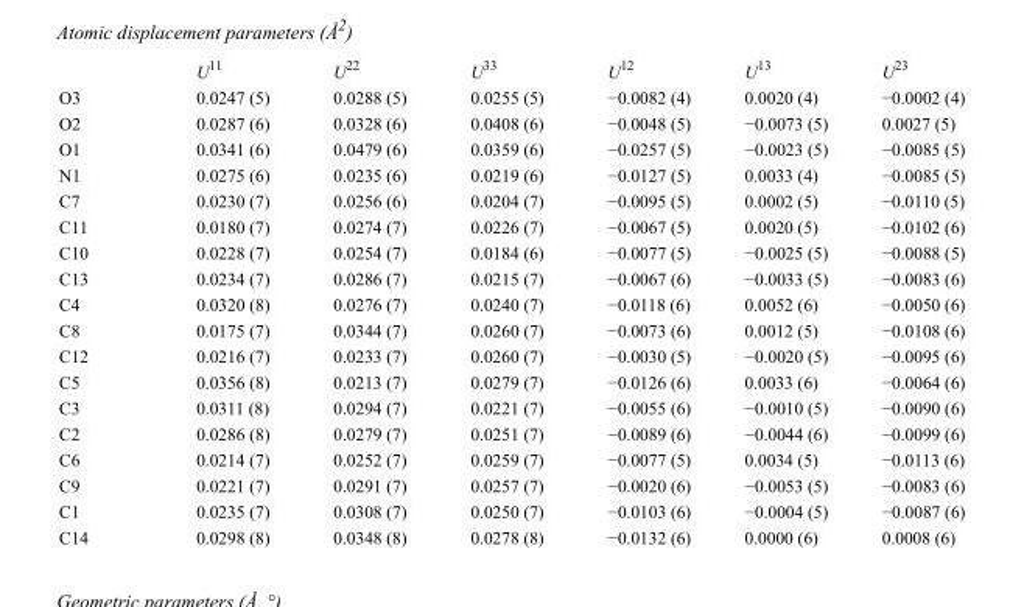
<table><thead><tr><td></td><td>U<sup>11</sup></td><td>U<sup>22</sup></td><td>U<sup>33</sup></td><td>U<sup>12</sup></td><td>U<sup>13</sup></td><td>U<sup>23</sup></td></tr></thead><tbody><tr><td>O3</td><td>0.0247 (5)</td><td>0.0288 (5)</td><td>0.0255 (5)</td><td>−0.0082 (4)</td><td>0.0020 (4)</td><td>−0.0002 (4)</td></tr><tr><td>O2</td><td>0.0287 (6)</td><td>0.0328 (6)</td><td>0.0408 (6)</td><td>−0.0048 (5)</td><td>−0.0073 (5)</td><td>0.0027 (5)</td></tr><tr><td>O1</td><td>0.0341 (6)</td><td>0.0479 (6)</td><td>0.0359 (6)</td><td>−0.0257 (5)</td><td>−0.0023 (5)</td><td>−0.0085 (5)</td></tr><tr><td>N1</td><td>0.0275 (6)</td><td>0.0235 (6)</td><td>0.0219 (6)</td><td>−0.0127 (5)</td><td>0.0033 (4)</td><td>−0.0085 (5)</td></tr><tr><td>C7</td><td>0.0230 (7)</td><td>0.0256 (6)</td><td>0.0204 (7)</td><td>−0.0095 (5)</td><td>0.0002 (5)</td><td>−0.0110 (5)</td></tr><tr><td>C11</td><td>0.0180 (7)</td><td>0.0274 (7)</td><td>0.0226 (7)</td><td>−0.0067 (5)</td><td>0.0020 (5)</td><td>−0.0102 (6)</td></tr><tr><td>C10</td><td>0.0228 (7)</td><td>0.0254 (7)</td><td>0.0184 (6)</td><td>−0.0077 (5)</td><td>−0.0025 (5)</td><td>−0.0088 (5)</td></tr><tr><td>C13</td><td>0.0234 (7)</td><td>0.0286 (7)</td><td>0.0215 (7)</td><td>−0.0067 (6)</td><td>−0.0033 (5)</td><td>−0.0083 (6)</td></tr><tr><td>C4</td><td>0.0320 (8)</td><td>0.0276 (7)</td><td>0.0240 (7)</td><td>−0.0118 (6)</td><td>0.0052 (6)</td><td>−0.0050 (6)</td></tr><tr><td>C8</td><td>0.0175 (7)</td><td>0.0344 (7)</td><td>0.0260 (7)</td><td>−0.0073 (6)</td><td>0.0012 (5)</td><td>−0.0108 (6)</td></tr><tr><td>C12</td><td>0.0216 (7)</td><td>0.0233 (7)</td><td>0.0260 (7)</td><td>−0.0030 (5)</td><td>−0.0020 (5)</td><td>−0.0095 (6)</td></tr><tr><td>C5</td><td>0.0356 (8)</td><td>0.0213 (7)</td><td>0.0279 (7)</td><td>−0.0126 (6)</td><td>0.0033 (6)</td><td>−0.0064 (6)</td></tr><tr><td>C3</td><td>0.0311 (8)</td><td>0.0294 (7)</td><td>0.0221 (7)</td><td>−0.0055 (6)</td><td>−0.0010 (5)</td><td>−0.0090 (6)</td></tr><tr><td>C2</td><td>0.0286 (8)</td><td>0.0279 (7)</td><td>0.0251 (7)</td><td>−0.0089 (6)</td><td>−0.0044 (6)</td><td>−0.0099 (6)</td></tr><tr><td>C6</td><td>0.0214 (7)</td><td>0.0252 (7)</td><td>0.0259 (7)</td><td>−0.0077 (5)</td><td>0.0034 (5)</td><td>−0.0113 (6)</td></tr><tr><td>C9</td><td>0.0221 (7)</td><td>0.0291 (7)</td><td>0.0257 (7)</td><td>−0.0020 (6)</td><td>−0.0053 (5)</td><td>−0.0083 (6)</td></tr><tr><td>C1</td><td>0.0235 (7)</td><td>0.0308 (7)</td><td>0.0250 (7)</td><td>−0.0103 (6)</td><td>−0.0004 (5)</td><td>−0.0087 (6)</td></tr><tr><td>C14</td><td>0.0298 (8)</td><td>0.0348 (8)</td><td>0.0278 (8)</td><td>−0.0132 (6)</td><td>0.0000 (6)</td><td>0.0008 (6)</td></tr></tbody></table>